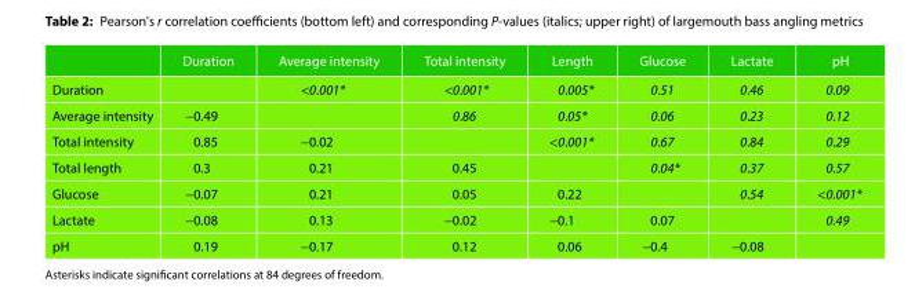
<table><thead><tr><td></td><td>Duration</td><td>Average intensity</td><td>Total intensity</td><td>Length</td><td>Glucose</td><td>Lactate</td><td>pH</td></tr></thead><tbody><tr><td>Duration</td><td></td><td>&lt;0.001*</td><td>&lt;0.001*</td><td>0.005*</td><td>0.51</td><td>0.46</td><td>0.09</td></tr><tr><td>Average intensity</td><td>−0.49</td><td></td><td>0.86</td><td>0.05*</td><td>0.06</td><td>0.23</td><td>0.12</td></tr><tr><td>Total intensity</td><td>0.85</td><td>−0.02</td><td></td><td>&lt;0.001*</td><td>0.67</td><td>0.84</td><td>0.29</td></tr><tr><td>Total length</td><td>0.3</td><td>0.21</td><td>0.45</td><td></td><td>0.04*</td><td>0.37</td><td>0.57</td></tr><tr><td>Glucose</td><td>−0.07</td><td>0.21</td><td>0.05</td><td>0.22</td><td></td><td>0.54</td><td>&lt;0.001*</td></tr><tr><td>Lactate</td><td>−0.08</td><td>0.13</td><td>−0.02</td><td>−0.1</td><td>0.07</td><td></td><td>0.49</td></tr><tr><td>pH</td><td>0.19</td><td>−0.17</td><td>0.12</td><td>0.06</td><td>−0.4</td><td>−0.08</td><td></td></tr></tbody></table>